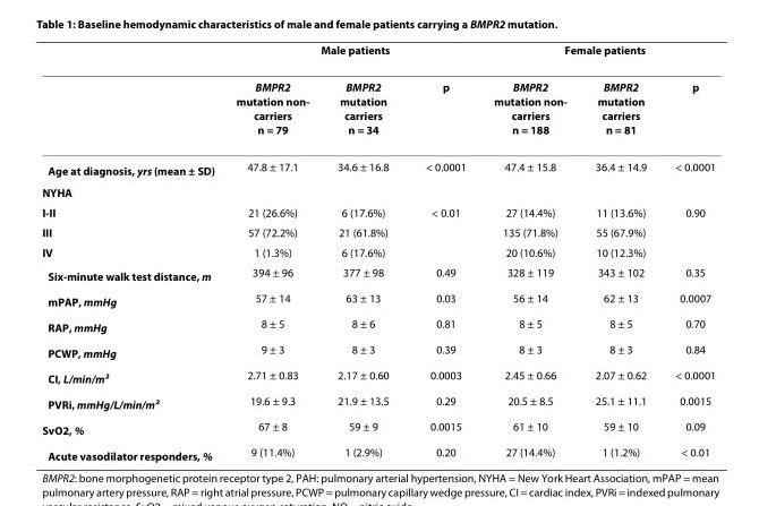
<table><thead><tr><td rowspan="2"></td><td colspan="3">Male patients</td><td colspan="3">Female patients</td></tr><tr><td>BMPR2 mutation non- carriers n = 79</td><td>BMPR2 mutation carriers n = 34</td><td>p</td><td>BMPR2 mutation non- carriers n = 188</td><td>BMPR2 mutation carriers n = 81</td><td>p</td></tr></thead><tbody><tr><td>Age at diagnosis, yrs (mean ± SD)</td><td>47.8 ± 17.1</td><td>34.6 ± 16.8</td><td>&lt; 0.0001</td><td>47.4 ± 15.8</td><td>36.4 ± 14.9</td><td>&lt; 0.0001</td></tr><tr><td colspan="7">NYHA</td></tr><tr><td>I-II</td><td>21 (26.6%)</td><td>6 (17.6%)</td><td>&lt; 0.01</td><td>27 (14.4%)</td><td>11 (13.6%)</td><td>0.90</td></tr><tr><td>III</td><td>57 (72.2%)</td><td>21 (61.8%)</td><td></td><td>135 (71.8%)</td><td>55 (67.9%)</td><td></td></tr><tr><td>IV</td><td>1 (1.3%)</td><td>6 (17.6%)</td><td></td><td>20 (10.6%)</td><td>10 (12.3%)</td><td></td></tr><tr><td>Six-minute walk test distance, m</td><td>394 ± 96</td><td>377 ± 98</td><td>0.49</td><td>328 ± 119</td><td>343 ± 102</td><td>0.35</td></tr><tr><td>mPAP, mmHg</td><td>57 ± 14</td><td>63 ± 13</td><td>0.03</td><td>56 ± 14</td><td>62 ± 13</td><td>0.0007</td></tr><tr><td>RAP, mmHg</td><td>8 ± 5</td><td>8 ± 6</td><td>0.81</td><td>8 ± 5</td><td>8 ± 5</td><td>0.70</td></tr><tr><td>PCWP, mmHg</td><td>9 ± 3</td><td>8 ± 3</td><td>0.39</td><td>8 ± 3</td><td>8 ± 3</td><td>0.84</td></tr><tr><td>CI, L/min/m<sup>2</sup></td><td>2.71 ± 0.83</td><td>2.17 ± 0.60</td><td>0.0003</td><td>2.45 ± 0.66</td><td>2.07 ± 0.62</td><td>&lt; 0.0001</td></tr><tr><td>PVRi, mmHg/L/min/m<sup>2</sup></td><td>19.6 ± 9.3</td><td>21.9 ± 13.5</td><td>0.29</td><td>20.5 ± 8.5</td><td>25.1 ± 11.1</td><td>0.0015</td></tr><tr><td>SvO<sub>2,</sub> %</td><td>67 ± 8</td><td>59 ± 9</td><td>0.0015</td><td>61 ± 10</td><td>59 ± 10</td><td>0.09</td></tr><tr><td>Acute vasodilator responders, %</td><td>9 (11.4%)</td><td>1 (2.9%)</td><td>0.20</td><td>27 (14.4%)</td><td>1 (1.2%)</td><td>&lt; 0.01</td></tr></tbody></table>